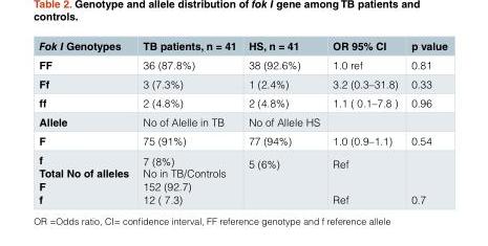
<table><thead><tr><td>Fok I Genotypes</td><td>TB patients, n = 41</td><td>HS, n = 41</td><td>OR 95% CI</td><td>p value</td></tr></thead><tbody><tr><td>FF</td><td>36 (87.8%)</td><td>38 (92.6%)</td><td>1.0 ref</td><td>0.81</td></tr><tr><td>Ff</td><td>3 (7.3%)</td><td>1 (2.4%)</td><td>3.2 (0.3–31.8)</td><td>0.33</td></tr><tr><td>ff</td><td>2 (4.8%)</td><td>2 (4.8%)</td><td>1.1 ( 0.1–7.8 )</td><td>0.96</td></tr><tr><td>Allele</td><td>No of Alelle in TB</td><td>No of Allele HS</td><td></td><td></td></tr><tr><td>F</td><td>75 (91%)</td><td>77 (94%)</td><td>1.0 (0.9–1.1)</td><td>0.54</td></tr><tr><td>f Total No of alleles F f</td><td>7 (8%) No in TB/Controls 152 (92.7) 12 ( 7.3)</td><td>5 (6%)</td><td>Ref Ref</td><td>0.7</td></tr></tbody></table>